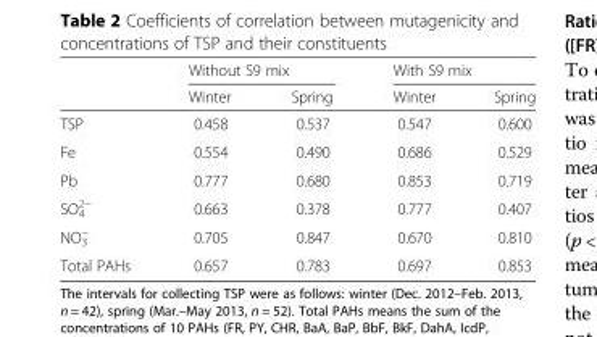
<table><thead><tr><td rowspan="2"></td><td colspan="2">Without S9 mix</td><td colspan="2">With S9 mix</td></tr><tr><td>Winter</td><td>Spring</td><td>Winter</td><td>Spring</td></tr></thead><tbody><tr><td>TSP</td><td>0.458</td><td>0.537</td><td>0.547</td><td>0.600</td></tr><tr><td>Fe</td><td>0.554</td><td>0.490</td><td>0.686</td><td>0.529</td></tr><tr><td>Pb</td><td>0.777</td><td>0.680</td><td>0.853</td><td>0.719</td></tr><tr><td>SO<sub>4</sub> <sup>2−</sup></td><td>0.663</td><td>0.378</td><td>0.777</td><td>0.407</td></tr><tr><td>NO<sub>3</sub> <sup>−</sup></td><td>0.705</td><td>0.847</td><td>0.670</td><td>0.810</td></tr><tr><td>Total PAHs</td><td>0.657</td><td>0.783</td><td>0.697</td><td>0.853</td></tr></tbody></table>